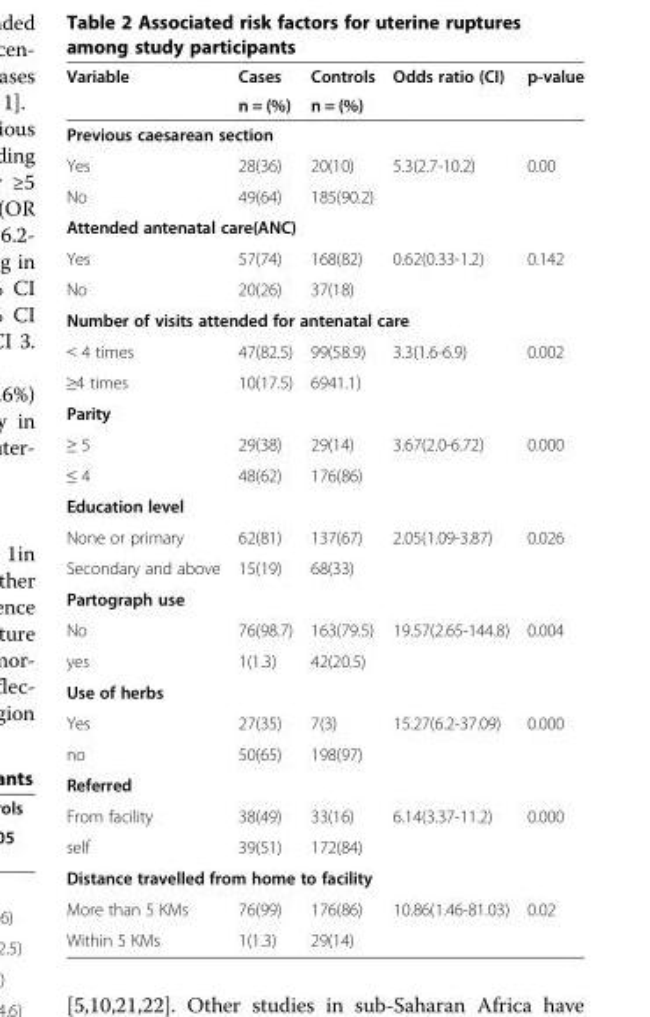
<table><thead><tr><td rowspan="2">Variable</td><td rowspan="2">Cases n = (%)</td><td rowspan="2">Controls n = (%)</td><td rowspan="2">Odds ratio (CI)</td><td rowspan="2">p-value</td></tr><tr></tr></thead><tbody><tr><td colspan="5">Previous caesarean section</td></tr><tr><td>Yes</td><td>28(36)</td><td>20(10)</td><td>5.3(2.7-10.2)</td><td>0.00</td></tr><tr><td>No</td><td>49(64)</td><td>185(90.2)</td><td></td><td></td></tr><tr><td colspan="5">Attended antenatal care(ANC)</td></tr><tr><td>Yes</td><td>57(74)</td><td>168(82)</td><td>0.62(0.33-1.2)</td><td>0.142</td></tr><tr><td>No</td><td>20(26)</td><td>37(18)</td><td></td><td></td></tr><tr><td colspan="5">Number of visits attended for antenatal care</td></tr><tr><td>&lt; 4 times</td><td>47(82.5)</td><td>99(58.9)</td><td>3.3(1.6-6.9)</td><td>0.002</td></tr><tr><td>≥4 times</td><td>10(17.5)</td><td>6941.1)</td><td></td><td></td></tr><tr><td colspan="5">Parity</td></tr><tr><td>≥ 5</td><td>29(38)</td><td>29(14)</td><td>3.67(2.0-6.72)</td><td>0.000</td></tr><tr><td>≤ 4</td><td>48(62)</td><td>176(86)</td><td></td><td></td></tr><tr><td colspan="5">Education level</td></tr><tr><td>None or primary</td><td>62(81)</td><td>137(67)</td><td>2.05(1.09-3.87)</td><td>0.026</td></tr><tr><td>Secondary and above</td><td>15(19)</td><td>68(33)</td><td></td><td></td></tr><tr><td colspan="5">Partograph use</td></tr><tr><td>No</td><td>76(98.7)</td><td>163(79.5)</td><td>19.57(2.65-144.8)</td><td>0.004</td></tr><tr><td>yes</td><td>1(1.3)</td><td>42(20.5)</td><td></td><td></td></tr><tr><td colspan="5">Use of herbs</td></tr><tr><td>Yes</td><td>27(35)</td><td>7(3)</td><td>15.27(6.2-37.09)</td><td>0.000</td></tr><tr><td>no</td><td>50(65)</td><td>198(97)</td><td></td><td></td></tr><tr><td colspan="5">Referred</td></tr><tr><td>From facility</td><td>38(49)</td><td>33(16)</td><td>6.14(3.37-11.2)</td><td>0.000</td></tr><tr><td>self</td><td>39(51)</td><td>172(84)</td><td></td><td></td></tr><tr><td colspan="5">Distance travelled from home to facility</td></tr><tr><td>More than 5 KMs</td><td>76(99)</td><td>176(86)</td><td>10.86(1.46-81.03)</td><td>0.02</td></tr><tr><td>Within 5 KMs</td><td>1(1.3)</td><td>29(14)</td><td></td><td></td></tr></tbody></table>